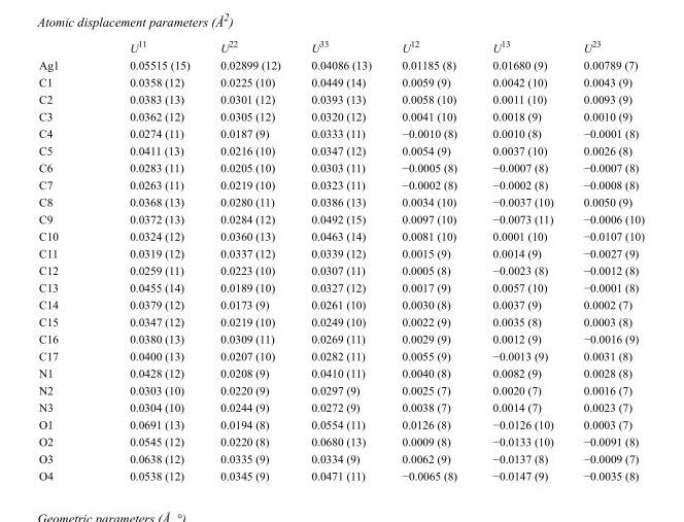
<table><thead><tr><td></td><td>U<sup>11</sup></td><td>U<sup>22</sup></td><td>U<sup>33</sup></td><td>U<sup>12</sup></td><td>U<sup>13</sup></td><td>U<sup>23</sup></td></tr></thead><tbody><tr><td>Ag1</td><td>0.05515 (15)</td><td>0.02899 (12)</td><td>0.04086 (13)</td><td>0.01185 (8)</td><td>0.01680 (9)</td><td>0.00789 (7)</td></tr><tr><td>C1</td><td>0.0358 (12)</td><td>0.0225 (10)</td><td>0.0449 (14)</td><td>0.0059 (9)</td><td>0.0042 (10)</td><td>0.0043 (9)</td></tr><tr><td>C2</td><td>0.0383 (13)</td><td>0.0301 (12)</td><td>0.0393 (13)</td><td>0.0058 (10)</td><td>0.0011 (10)</td><td>0.0093 (9)</td></tr><tr><td>C3</td><td>0.0362 (12)</td><td>0.0305 (12)</td><td>0.0320 (12)</td><td>0.0041 (10)</td><td>0.0018 (9)</td><td>0.0010 (9)</td></tr><tr><td>C4</td><td>0.0274 (11)</td><td>0.0187 (9)</td><td>0.0333 (11)</td><td>−0.0010 (8)</td><td>0.0010 (8)</td><td>−0.0001 (8)</td></tr><tr><td>C5</td><td>0.0411 (13)</td><td>0.0216 (10)</td><td>0.0347 (12)</td><td>0.0054 (9)</td><td>0.0037 (10)</td><td>0.0026 (8)</td></tr><tr><td>C6</td><td>0.0283 (11)</td><td>0.0205 (10)</td><td>0.0303 (11)</td><td>−0.0005 (8)</td><td>−0.0007 (8)</td><td>−0.0007 (8)</td></tr><tr><td>C7</td><td>0.0263 (11)</td><td>0.0219 (10)</td><td>0.0323 (11)</td><td>−0.0002 (8)</td><td>−0.0002 (8)</td><td>−0.0008 (8)</td></tr><tr><td>C8</td><td>0.0368 (13)</td><td>0.0280 (11)</td><td>0.0386 (13)</td><td>0.0034 (10)</td><td>−0.0037 (10)</td><td>0.0050 (9)</td></tr><tr><td>C9</td><td>0.0372 (13)</td><td>0.0284 (12)</td><td>0.0492 (15)</td><td>0.0097 (10)</td><td>−0.0073 (11)</td><td>−0.0006 (10)</td></tr><tr><td>C10</td><td>0.0324 (12)</td><td>0.0360 (13)</td><td>0.0463 (14)</td><td>0.0081 (10)</td><td>0.0001 (10)</td><td>−0.0107 (10)</td></tr><tr><td>C11</td><td>0.0319 (12)</td><td>0.0337 (12)</td><td>0.0339 (12)</td><td>0.0015 (9)</td><td>0.0014 (9)</td><td>−0.0027 (9)</td></tr><tr><td>C12</td><td>0.0259 (11)</td><td>0.0223 (10)</td><td>0.0307 (11)</td><td>0.0005 (8)</td><td>−0.0023 (8)</td><td>−0.0012 (8)</td></tr><tr><td>C13</td><td>0.0455 (14)</td><td>0.0189 (10)</td><td>0.0327 (12)</td><td>0.0017 (9)</td><td>0.0057 (10)</td><td>−0.0001 (8)</td></tr><tr><td>C14</td><td>0.0379 (12)</td><td>0.0173 (9)</td><td>0.0261 (10)</td><td>0.0030 (8)</td><td>0.0037 (9)</td><td>0.0002 (7)</td></tr><tr><td>C15</td><td>0.0347 (12)</td><td>0.0219 (10)</td><td>0.0249 (10)</td><td>0.0022 (9)</td><td>0.0035 (8)</td><td>0.0003 (8)</td></tr><tr><td>C16</td><td>0.0380 (13)</td><td>0.0309 (11)</td><td>0.0269 (11)</td><td>0.0029 (9)</td><td>0.0012 (9)</td><td>−0.0016 (9)</td></tr><tr><td>C17</td><td>0.0400 (13)</td><td>0.0207 (10)</td><td>0.0282 (11)</td><td>0.0055 (9)</td><td>−0.0013 (9)</td><td>0.0031 (8)</td></tr><tr><td>N1</td><td>0.0428 (12)</td><td>0.0208 (9)</td><td>0.0410 (11)</td><td>0.0040 (8)</td><td>0.0082 (9)</td><td>0.0028 (8)</td></tr><tr><td>N2</td><td>0.0303 (10)</td><td>0.0220 (9)</td><td>0.0297 (9)</td><td>0.0025 (7)</td><td>0.0020 (7)</td><td>0.0016 (7)</td></tr><tr><td>N3</td><td>0.0304 (10)</td><td>0.0244 (9)</td><td>0.0272 (9)</td><td>0.0038 (7)</td><td>0.0014 (7)</td><td>0.0023 (7)</td></tr><tr><td>O1</td><td>0.0691 (13)</td><td>0.0194 (8)</td><td>0.0554 (11)</td><td>0.0126 (8)</td><td>−0.0126 (10)</td><td>0.0003 (7)</td></tr><tr><td>O2</td><td>0.0545 (12)</td><td>0.0220 (8)</td><td>0.0680 (13)</td><td>0.0009 (8)</td><td>−0.0133 (10)</td><td>−0.0091 (8)</td></tr><tr><td>O3</td><td>0.0638 (12)</td><td>0.0335 (9)</td><td>0.0334 (9)</td><td>0.0062 (9)</td><td>−0.0137 (8)</td><td>−0.0009 (7)</td></tr><tr><td>O4</td><td>0.0538 (12)</td><td>0.0345 (9)</td><td>0.0471 (11)</td><td>−0.0065 (8)</td><td>−0.0147 (9)</td><td>−0.0035 (8)</td></tr></tbody></table>